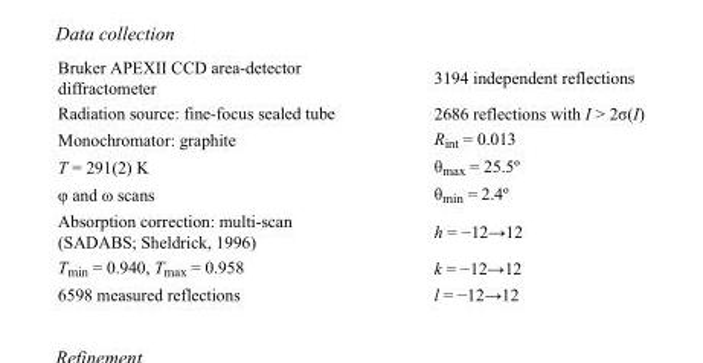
<table><tbody><tr><td>Bruker APEXII CCD area-detector diffractometer</td><td>3194 independent reflections</td></tr><tr><td>Radiation source: fine-focus sealed tube</td><td>2686 reflections with I &gt; 2σ(I)</td></tr><tr><td>Monochromator: graphite</td><td>R<sub>int</sub> = 0.013</td></tr><tr><td>T = 291(2) K</td><td>θ<sub>max</sub> = 25.5º</td></tr><tr><td>φ and ω scans</td><td>θ<sub>min</sub> = 2.4º</td></tr><tr><td>Absorption correction: multi-scan (SADABS; Sheldrick, 1996)</td><td>h = −12→12</td></tr><tr><td>T<sub>min</sub> = 0.940, T<sub>max</sub> = 0.958</td><td>k = −12→12</td></tr><tr><td>6598 measured reflections</td><td>l = −12→12</td></tr></tbody></table>